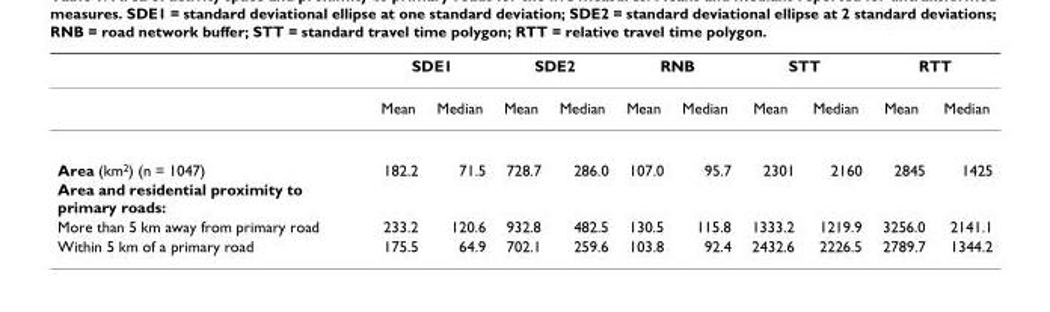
<table><thead><tr><td rowspan="2"></td><td colspan="2">SDE1</td><td colspan="2">SDE2</td><td colspan="2">RNB</td><td colspan="2">STT</td><td colspan="2">RTT</td></tr><tr><td>Mean</td><td>Median</td><td>Mean</td><td>Median</td><td>Mean</td><td>Median</td><td>Mean</td><td>Median</td><td>Mean</td><td>Median</td></tr></thead><tbody><tr><td>Area (km<sup>2</sup>) (n = 1047)</td><td>182.2</td><td>71.5</td><td>728.7</td><td>286.0</td><td>107.0</td><td>95.7</td><td>2301</td><td>2160</td><td>2845</td><td>1425</td></tr><tr><td colspan="11">Area and residential proximity to primary roads:</td></tr><tr><td>More than 5 km away from primary road</td><td>233.2</td><td>120.6</td><td>932.8</td><td>482.5</td><td>130.5</td><td>115.8</td><td>1333.2</td><td>1219.9</td><td>3256.0</td><td>2141.1</td></tr><tr><td>Within 5 km of a primary road</td><td>175.5</td><td>64.9</td><td>702.1</td><td>259.6</td><td>103.8</td><td>92.4</td><td>2432.6</td><td>2226.5</td><td>2789.7</td><td>1344.2</td></tr></tbody></table>